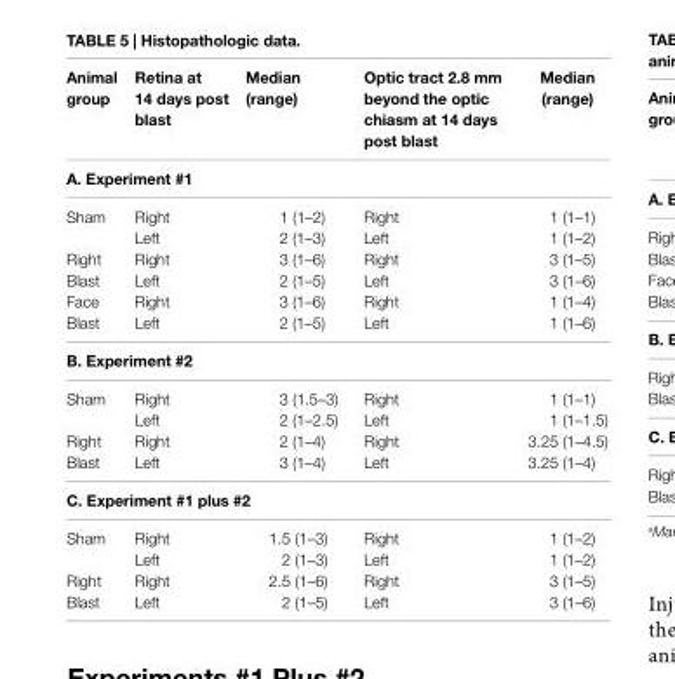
<table><thead><tr><td>animal group</td><td>retina at 14 days post blast</td><td>Median (range)</td><td>Optic tract 2.8 mm beyond the optic chiasm at 14 days post blast</td><td>Median (range)</td></tr></thead><tbody><tr><td colspan="5">a. experiment #1</td></tr><tr><td rowspan="2">Sham</td><td>Right</td><td>1 (1–2)</td><td>Right</td><td>1 (1–1)</td></tr><tr><td>Left</td><td>2 (1–3)</td><td>Left</td><td>1 (1–2)</td></tr><tr><td>Right</td><td>Right</td><td>3 (1–6)</td><td>Right</td><td>3 (1–5)</td></tr><tr><td>Blast</td><td>Left</td><td>2 (1–5)</td><td>Left</td><td>3 (1–6)</td></tr><tr><td>Face</td><td>Right</td><td>3 (1–6)</td><td>Right</td><td>1 (1–4)</td></tr><tr><td>Blast</td><td>Left</td><td>2 (1–5)</td><td>Left</td><td>1 (1–6)</td></tr><tr><td colspan="5">B. experiment #2</td></tr><tr><td rowspan="2">Sham</td><td>Right</td><td>3 (1.5–3)</td><td>Right</td><td>1 (1–1)</td></tr><tr><td>Left</td><td>2 (1–2.5)</td><td>Left</td><td>1 (1–1.5)</td></tr><tr><td>Right</td><td>Right</td><td>2 (1–4)</td><td>Right</td><td>3.25 (1–4.5)</td></tr><tr><td>Blast</td><td>Left</td><td>3 (1–4)</td><td>Left</td><td>3.25 (1–4)</td></tr><tr><td colspan="5">c. experiment #1 plus #2</td></tr><tr><td rowspan="2">Sham</td><td>Right</td><td>1.5 (1–3)</td><td>Right</td><td>1 (1–2)</td></tr><tr><td>Left</td><td>2 (1–3)</td><td>Left</td><td>1 (1–2)</td></tr><tr><td>Right</td><td>Right</td><td>2.5 (1–6)</td><td>Right</td><td>3 (1–5)</td></tr><tr><td>Blast</td><td>Left</td><td>2 (1–5)</td><td>Left</td><td>3 (1–6)</td></tr></tbody></table>